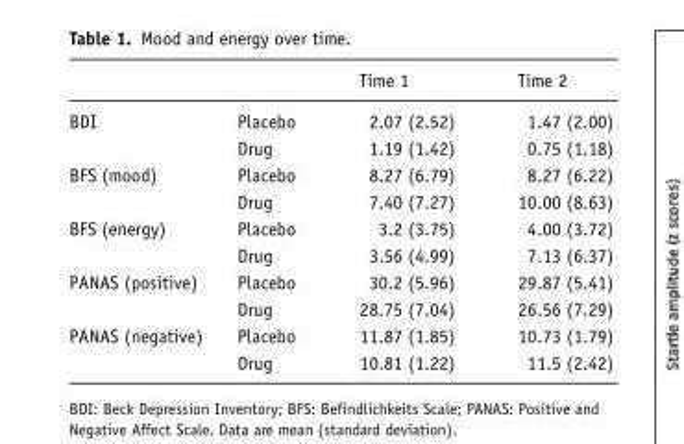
<table><thead><tr><td></td><td></td><td>Time 1</td><td>Time 2</td></tr></thead><tbody><tr><td rowspan="2">BDI</td><td>Placebo</td><td>2.07 (2.52)</td><td>1.47 (2.00)</td></tr><tr><td>Drug</td><td>1.19 (1.42)</td><td>0.75 (1.18)</td></tr><tr><td rowspan="2">BFS (mood)</td><td>Placebo</td><td>8.27 (6.79)</td><td>8.27 (6.22)</td></tr><tr><td>Drug</td><td>7.40 (7.27)</td><td>10.00 (8.63)</td></tr><tr><td rowspan="2">BFS (energy)</td><td>Placebo</td><td>3.2 (3.75)</td><td>4.00 (3.72)</td></tr><tr><td>Drug</td><td>3.56 (4.99)</td><td>7.13 (6.37)</td></tr><tr><td rowspan="2">PANAS (positive)</td><td>Placebo</td><td>30.2 (5.96)</td><td>29.87 (5.41)</td></tr><tr><td>Drug</td><td>28.75 (7.04)</td><td>26.56 (7.29)</td></tr><tr><td rowspan="2">PANAS (negative)</td><td>Placebo</td><td>11.87 (1.85)</td><td>10.73 (1.79)</td></tr><tr><td>Drug</td><td>10.81 (1.22)</td><td>11.5 (2.42)</td></tr></tbody></table>